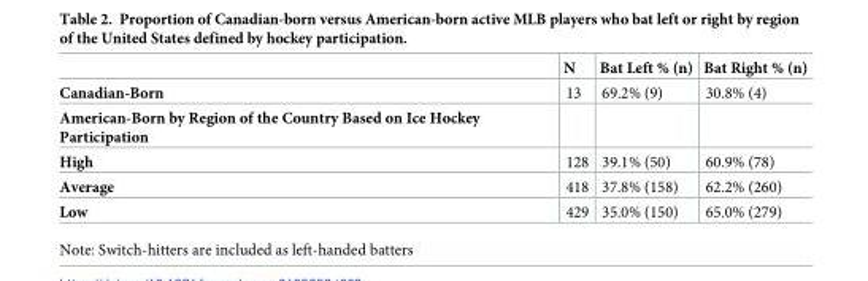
<table><thead><tr><td></td><td>N</td><td>Bat Left % (n)</td><td>Bat Right % (n)</td></tr></thead><tbody><tr><td>Canadian-Born</td><td>13</td><td>69.2% (9)</td><td>30.8% (4)</td></tr><tr><td colspan="4">American-Born by Region of the Country Based on Ice Hockey Participation</td></tr><tr><td>High</td><td>128</td><td>39.1% (50)</td><td>60.9% (78)</td></tr><tr><td>Average</td><td>418</td><td>37.8% (158)</td><td>62.2% (260)</td></tr><tr><td>Low</td><td>429</td><td>35.0% (150)</td><td>65.0% (279)</td></tr></tbody></table>